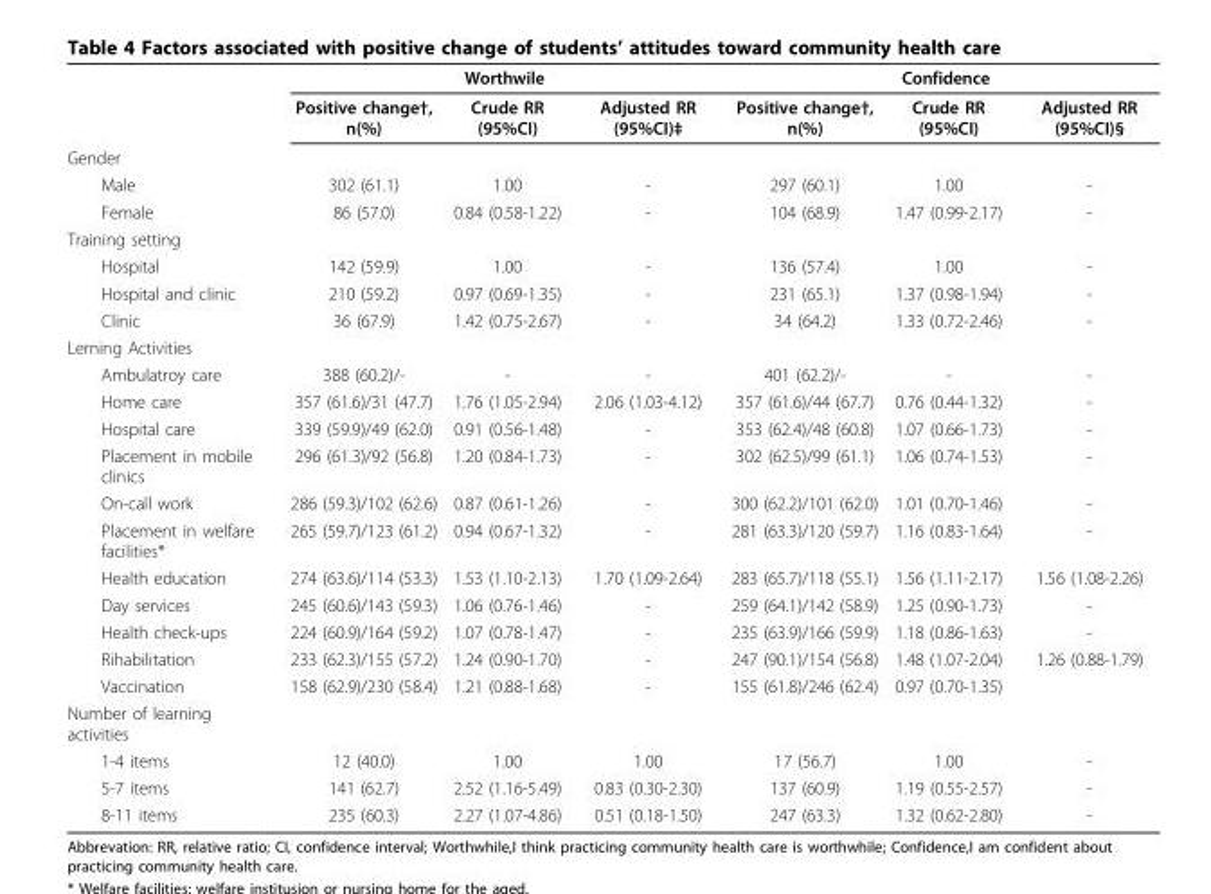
<table><thead><tr><td rowspan="2"></td><td colspan="3">Worthwile</td><td colspan="3">Confidence</td></tr><tr><td>Positive change†, n(%)</td><td>Crude RR (95%CI)</td><td>Adjusted RR (95%CI)‡</td><td>Positive change†, n(%)</td><td>Crude RR (95%CI)</td><td>Adjusted RR (95%CI)§</td></tr></thead><tbody><tr><td colspan="7">Gender</td></tr><tr><td>Male</td><td>302 (61.1)</td><td>1.00</td><td>-</td><td>297 (60.1)</td><td>1.00</td><td>-</td></tr><tr><td>Female</td><td>86 (57.0)</td><td>0.84 (0.58-1.22)</td><td>-</td><td>104 (68.9)</td><td>1.47 (0.99-2.17)</td><td>-</td></tr><tr><td colspan="7">Training setting</td></tr><tr><td>Hospital</td><td>142 (59.9)</td><td>1.00</td><td>-</td><td>136 (57.4)</td><td>1.00</td><td>-</td></tr><tr><td>Hospital and clinic</td><td>210 (59.2)</td><td>0.97 (0.69-1.35)</td><td>-</td><td>231 (65.1)</td><td>1.37 (0.98-1.94)</td><td>-</td></tr><tr><td>Clinic</td><td>36 (67.9)</td><td>1.42 (0.75-2.67)</td><td>-</td><td>34 (64.2)</td><td>1.33 (0.72-2.46)</td><td>-</td></tr><tr><td colspan="7">Lerning Activities</td></tr><tr><td>Ambulatroy care</td><td>388 (60.2)/-</td><td>-</td><td>-</td><td>401 (62.2)/-</td><td>-</td><td>-</td></tr><tr><td>Home care</td><td>357 (61.6)/31 (47.7)</td><td>1.76 (1.05-2.94)</td><td>2.06 (1.03-4.12)</td><td>357 (61.6)/44 (67.7)</td><td>0.76 (0.44-1.32)</td><td>-</td></tr><tr><td>Hospital care</td><td>339 (59.9)/49 (62.0)</td><td>0.91 (0.56-1.48)</td><td>-</td><td>353 (62.4)/48 (60.8)</td><td>1.07 (0.66-1.73)</td><td>-</td></tr><tr><td>Placement in mobile clinics</td><td>296 (61.3)/92 (56.8)</td><td>1.20 (0.84-1.73)</td><td>-</td><td>302 (62.5)/99 (61.1)</td><td>1.06 (0.74-1.53)</td><td>-</td></tr><tr><td>On-call work</td><td>286 (59.3)/102 (62.6)</td><td>0.87 (0.61-1.26)</td><td>-</td><td>300 (62.2)/101 (62.0)</td><td>1.01 (0.70-1.46)</td><td>-</td></tr><tr><td>Placement in welfare facilities*</td><td>265 (59.7)/123 (61.2)</td><td>0.94 (0.67-1.32)</td><td>-</td><td>281 (63.3)/120 (59.7)</td><td>1.16 (0.83-1.64)</td><td>-</td></tr><tr><td>Health education</td><td>274 (63.6)/114 (53.3)</td><td>1.53 (1.10-2.13)</td><td>1.70 (1.09-2.64)</td><td>283 (65.7)/118 (55.1)</td><td>1.56 (1.11-2.17)</td><td>1.56 (1.08-2.26)</td></tr><tr><td>Day services</td><td>245 (60.6)/143 (59.3)</td><td>1.06 (0.76-1.46)</td><td>-</td><td>259 (64.1)/142 (58.9)</td><td>1.25 (0.90-1.73)</td><td>-</td></tr><tr><td>Health check-ups</td><td>224 (60.9)/164 (59.2)</td><td>1.07 (0.78-1.47)</td><td>-</td><td>235 (63.9)/166 (59.9)</td><td>1.18 (0.86-1.63)</td><td>-</td></tr><tr><td>Rihabilitation</td><td>233 (62.3)/155 (57.2)</td><td>1.24 (0.90-1.70)</td><td>-</td><td>247 (90.1)/154 (56.8)</td><td>1.48 (1.07-2.04)</td><td>1.26 (0.88-1.79)</td></tr><tr><td>Vaccination</td><td>158 (62.9)/230 (58.4)</td><td>1.21 (0.88-1.68)</td><td>-</td><td>155 (61.8)/246 (62.4)</td><td>0.97 (0.70-1.35)</td><td></td></tr><tr><td colspan="7">Number of learning activities</td></tr><tr><td>1-4 items</td><td>12 (40.0)</td><td>1.00</td><td>1.00</td><td>17 (56.7)</td><td>1.00</td><td>-</td></tr><tr><td>5-7 items</td><td>141 (62.7)</td><td>2.52 (1.16-5.49)</td><td>0.83 (0.30-2.30)</td><td>137 (60.9)</td><td>1.19 (0.55-2.57)</td><td>-</td></tr><tr><td>8-11 items</td><td>235 (60.3)</td><td>2.27 (1.07-4.86)</td><td>0.51 (0.18-1.50)</td><td>247 (63.3)</td><td>1.32 (0.62-2.80)</td><td>-</td></tr></tbody></table>